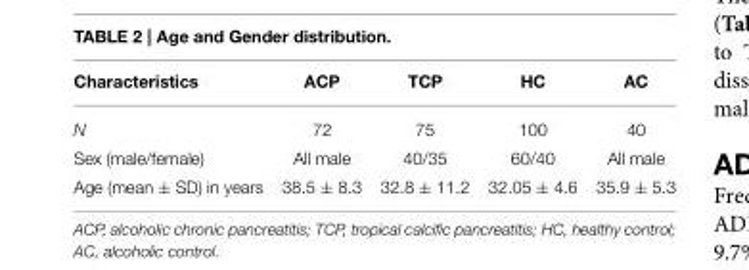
<table><thead><tr><td>Characteristics</td><td>ACP</td><td>TCP</td><td>HC</td><td>AC</td></tr></thead><tbody><tr><td>N</td><td>72</td><td>75</td><td>100</td><td>40</td></tr><tr><td>Sex (male/female)</td><td>All male</td><td>40/35</td><td>60/40</td><td>All male</td></tr><tr><td>Age (mean ± SD) in years</td><td>38.5 ± 8.3</td><td>32.8 ± 11.2</td><td>32.05 ± 4.6</td><td>35.9 ± 5.3</td></tr></tbody></table>